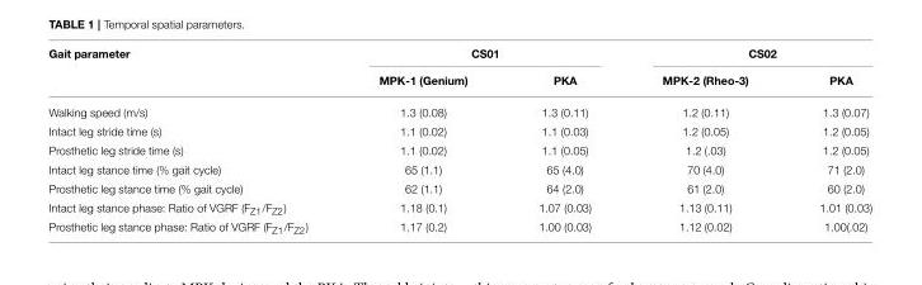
<table><thead><tr><td rowspan="2">Gait parameter</td><td colspan="2">CS01</td><td colspan="2">CS02</td></tr><tr><td>MPK-1 (Genium)</td><td>PKA</td><td>MPK-2 (Rheo-3)</td><td>PKA</td></tr></thead><tbody><tr><td>Walking speed (m/s)</td><td>1.3 (0.08)</td><td>1.3 (0.11)</td><td>1.2 (0.11)</td><td>1.3 (0.07)</td></tr><tr><td>Intact leg stride time (s)</td><td>1.1 (0.02)</td><td>1.1 (0.03)</td><td>1.2 (0.05)</td><td>1.2 (0.05)</td></tr><tr><td>Prosthetic leg stride time (s)</td><td>1.1 (0.02)</td><td>1.1 (0.05)</td><td>1.2 (.03)</td><td>1.2 (0.05)</td></tr><tr><td>Intact leg stance time (% gait cycle)</td><td>65 (1.1)</td><td>65 (4.0)</td><td>70 (4.0)</td><td>71 (2.0)</td></tr><tr><td>Prosthetic leg stance time (% gait cycle)</td><td>62 (1.1)</td><td>64 (2.0)</td><td>61 (2.0)</td><td>60 (2.0)</td></tr><tr><td>Intact leg stance phase: Ratio of VGRF (F<sub>Z1</sub>/F<sub>Z2</sub>)</td><td>1.18 (0.1)</td><td>1.07 (0.03)</td><td>1.13 (0.11)</td><td>1.01 (0.03)</td></tr><tr><td>Prosthetic leg stance phase: Ratio of VGRF (F<sub>Z1</sub>/F<sub>Z2</sub>)</td><td>1.17 (0.2)</td><td>1.00 (0.03)</td><td>1.12 (0.02)</td><td>1.00(.02)</td></tr></tbody></table>